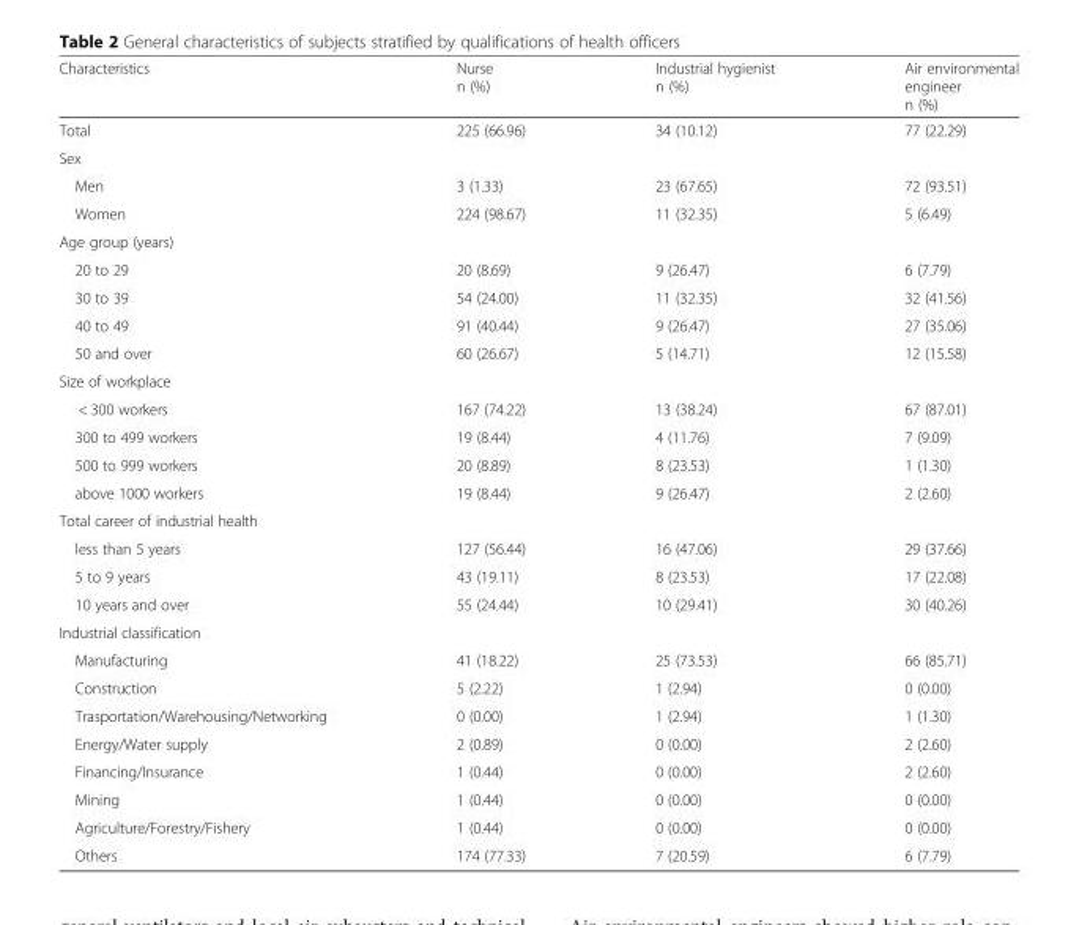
<table><thead><tr><td>Characteristics</td><td>Nurse n (%)</td><td>Industrial hygienist n (%)</td><td>Air environmental engineer n (%)</td></tr></thead><tbody><tr><td>Total</td><td>225 (66.96)</td><td>34 (10.12)</td><td>77 (22.29)</td></tr><tr><td colspan="4">Sex</td></tr><tr><td>Men</td><td>3 (1.33)</td><td>23 (67.65)</td><td>72 (93.51)</td></tr><tr><td>Women</td><td>224 (98.67)</td><td>11 (32.35)</td><td>5 (6.49)</td></tr><tr><td colspan="4">Age group (years)</td></tr><tr><td>20 to 29</td><td>20 (8.69)</td><td>9 (26.47)</td><td>6 (7.79)</td></tr><tr><td>30 to 39</td><td>54 (24.00)</td><td>11 (32.35)</td><td>32 (41.56)</td></tr><tr><td>40 to 49</td><td>91 (40.44)</td><td>9 (26.47)</td><td>27 (35.06)</td></tr><tr><td>50 and over</td><td>60 (26.67)</td><td>5 (14.71)</td><td>12 (15.58)</td></tr><tr><td colspan="4">Size of workplace</td></tr><tr><td>&lt; 300 workers</td><td>167 (74.22)</td><td>13 (38.24)</td><td>67 (87.01)</td></tr><tr><td>300 to 499 workers</td><td>19 (8.44)</td><td>4 (11.76)</td><td>7 (9.09)</td></tr><tr><td>500 to 999 workers</td><td>20 (8.89)</td><td>8 (23.53)</td><td>1 (1.30)</td></tr><tr><td>above 1000 workers</td><td>19 (8.44)</td><td>9 (26.47)</td><td>2 (2.60)</td></tr><tr><td colspan="4">Total career of industrial health</td></tr><tr><td>less than 5 years</td><td>127 (56.44)</td><td>16 (47.06)</td><td>29 (37.66)</td></tr><tr><td>5 to 9 years</td><td>43 (19.11)</td><td>8 (23.53)</td><td>17 (22.08)</td></tr><tr><td>10 years and over</td><td>55 (24.44)</td><td>10 (29.41)</td><td>30 (40.26)</td></tr><tr><td colspan="4">Industrial classification</td></tr><tr><td>Manufacturing</td><td>41 (18.22)</td><td>25 (73.53)</td><td>66 (85.71)</td></tr><tr><td>Construction</td><td>5 (2.22)</td><td>1 (2.94)</td><td>0 (0.00)</td></tr><tr><td>Trasportation/Warehousing/Networking</td><td>0 (0.00)</td><td>1 (2.94)</td><td>1 (1.30)</td></tr><tr><td>Energy/Water supply</td><td>2 (0.89)</td><td>0 (0.00)</td><td>2 (2.60)</td></tr><tr><td>Financing/Insurance</td><td>1 (0.44)</td><td>0 (0.00)</td><td>2 (2.60)</td></tr><tr><td>Mining</td><td>1 (0.44)</td><td>0 (0.00)</td><td>0 (0.00)</td></tr><tr><td>Agriculture/Forestry/Fishery</td><td>1 (0.44)</td><td>0 (0.00)</td><td>0 (0.00)</td></tr><tr><td>Others</td><td>174 (77.33)</td><td>7 (20.59)</td><td>6 (7.79)</td></tr></tbody></table>